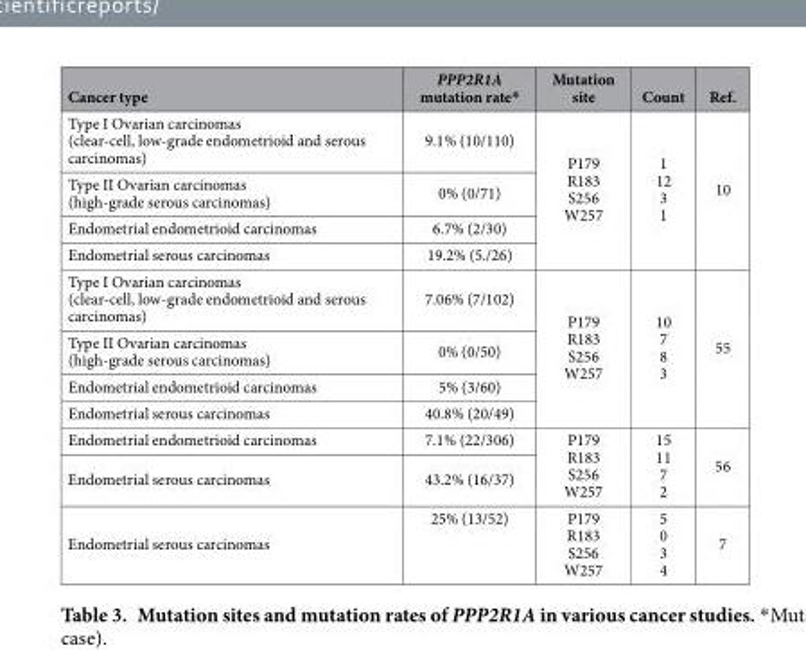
<table><thead><tr><td>Cancer type</td><td>PPP2R1A mutation rate*</td><td>Mutation site</td><td>Count</td><td>Ref.</td></tr></thead><tbody><tr><td>Type I Ovarian carcinomas (clear-cell, low-grade endometrioid and serous carcinomas)</td><td>9.1% (10/110)</td><td rowspan="4">P179 R183 S256 W257</td><td rowspan="4">1 12 3 1</td><td rowspan="4">10</td></tr><tr><td>Type II Ovarian carcinomas (high-grade serous carcinomas)</td><td>0% (0/71)</td></tr><tr><td>Endometrial endometrioid carcinomas</td><td>6.7% (2/30)</td></tr><tr><td>Endometrial serous carcinomas</td><td>19.2% (5./26)</td></tr><tr><td>Type I Ovarian carcinomas (clear-cell, low-grade endometrioid and serous carcinomas)</td><td>7.06% (7/102)</td><td rowspan="4">P179 R183 S256 W257</td><td rowspan="4">10 7 8 3</td><td rowspan="4">55</td></tr><tr><td>Type II Ovarian carcinomas (high-grade serous carcinomas)</td><td>0% (0/50)</td></tr><tr><td>Endometrial endometrioid carcinomas</td><td>5% (3/60)</td></tr><tr><td>Endometrial serous carcinomas</td><td>40.8% (20/49)</td></tr><tr><td>Endometrial endometrioid carcinomas</td><td>7.1% (22/306)</td><td rowspan="2">P179 R183 S256 W257</td><td rowspan="2">15 11 7 2</td><td rowspan="2">56</td></tr><tr><td>Endometrial serous carcinomas</td><td>43.2% (16/37)</td></tr><tr><td>Endometrial serous carcinomas</td><td>25% (13/52)</td><td>P179 R183 S256 W257</td><td>5 0 3 4</td><td>7</td></tr></tbody></table>